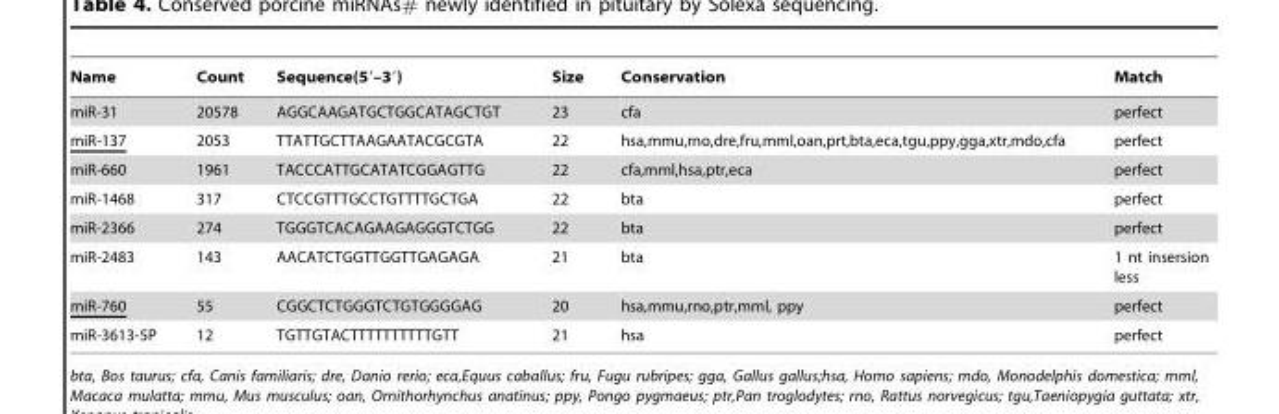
<table><thead><tr><td>Name</td><td>Count</td><td>Sequence(5′–3′)</td><td>Size</td><td>Conservation</td><td>Match</td></tr></thead><tbody><tr><td>miR-31</td><td>20578</td><td>AGGCAAGATGCTGGCATAGCTGT</td><td>23</td><td>cfa</td><td>perfect</td></tr><tr><td>miR-137</td><td>2053</td><td>TTATTGCTTAAGAATACGCGTA</td><td>22</td><td>hsa,mmu,rno,dre,fru,mml,oan,prt,bta,eca,tgu,ppy,gga,xtr,mdo,cfa</td><td>perfect</td></tr><tr><td>miR-660</td><td>1961</td><td>TACCCATTGCATATCGGAGTTG</td><td>22</td><td>cfa,mml,hsa,ptr,eca</td><td>perfect</td></tr><tr><td>miR-1468</td><td>317</td><td>CTCCGTTTGCCTGTTTTGCTGA</td><td>22</td><td>bta</td><td>perfect</td></tr><tr><td>miR-2366</td><td>274</td><td>TGGGTCACAGAAGAGGGTCTGG</td><td>22</td><td>bta</td><td>perfect</td></tr><tr><td>miR-2483</td><td>143</td><td>AACATCTGGTTGGTTGAGAGA</td><td>21</td><td>bta</td><td>1 nt insersion less</td></tr><tr><td>miR-760</td><td>55</td><td>CGGCTCTGGGTCTGTGGGGAG</td><td>20</td><td>hsa,mmu,rno,ptr,mml, ppy</td><td>perfect</td></tr><tr><td>miR-3613-5P</td><td>12</td><td>TGTTGTACTTTTTTTTTTGTT</td><td>21</td><td>hsa</td><td>perfect</td></tr></tbody></table>